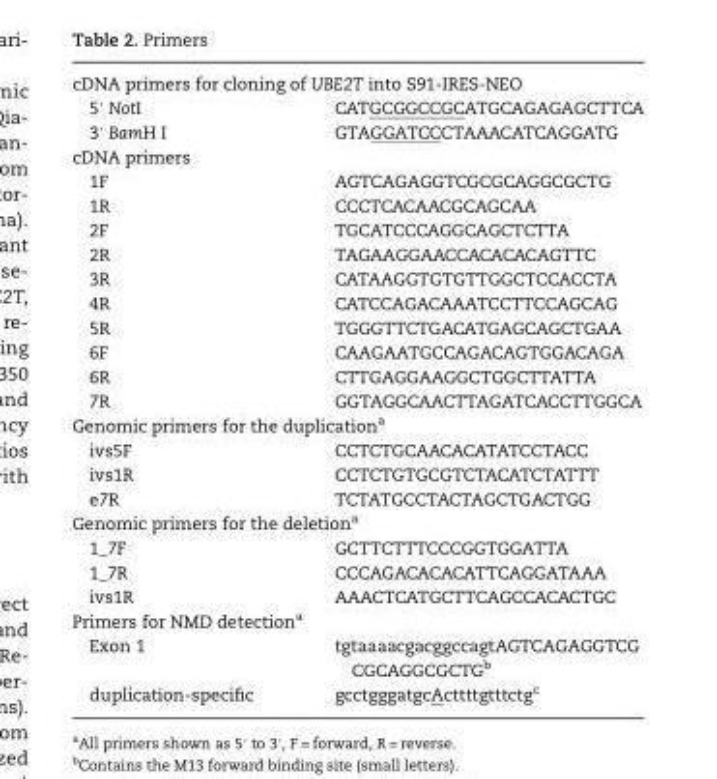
<table><tbody><tr><td colspan="2">cDNA primers for cloning of UBE2T into S91-IRES-NEO</td></tr><tr><td>5′ NotI</td><td>CATGCGGCCGCATGCAGAGAGCTTCA</td></tr><tr><td>3′ BamH I</td><td>GTAGGATCCCTAAACATCAGGATG</td></tr><tr><td colspan="2">cDNA primers</td></tr><tr><td>1F</td><td>AGTCAGAGGTCGCGCAGGCGCTG</td></tr><tr><td>1R</td><td>CCCTCACAACGCAGCAA</td></tr><tr><td>2F</td><td>TGCATCCCAGGCAGCTCTTA</td></tr><tr><td>2R</td><td>TAGAAGGAACCACACACAGTTC</td></tr><tr><td>3R</td><td>CATAAGGTGTGTTGGCTCCACCTA</td></tr><tr><td>4R</td><td>CATCCAGACAAATCCTTCCAGCAG</td></tr><tr><td>5R</td><td>TGGGTTCTGACATGAGCAGCTGAA</td></tr><tr><td>6F</td><td>CAAGAATGCCAGACAGTGGACAGA</td></tr><tr><td>6R</td><td>CTTGAGGAAGGCTGGCTTATTA</td></tr><tr><td>7R</td><td>GGTAGGCAACTTAGATCACCTTGGCA</td></tr><tr><td colspan="2">Genomic primers for the duplication<sup>a</sup></td></tr><tr><td>ivs5F</td><td>CCTCTGCAACACATATCCTACC</td></tr><tr><td>ivs1R</td><td>CCTCTGTGCGTCTACATCTATTT</td></tr><tr><td>e7R</td><td>TCTATGCCTACTAGCTGACTGG</td></tr><tr><td colspan="2">Genomic primers for the deletion<sup>a</sup></td></tr><tr><td>1_7F</td><td>GCTTCTTTCCCGGTGGATTA</td></tr><tr><td>1_7R</td><td>CCCAGACACACATTCAGGATAAA</td></tr><tr><td>ivs1R</td><td>AAACTCATGCTTCAGCCACACTGC</td></tr><tr><td colspan="2">Primers for NMD detection<sup>a</sup></td></tr><tr><td>Exon 1</td><td>tgtaaaacgacggccagtAGTCAGAGGTCG CGCAGGCGCTG<sup>b</sup></td></tr><tr><td>duplication-specific</td><td>gcctgggatgcActtttgtttctg<sup>c</sup></td></tr></tbody></table>